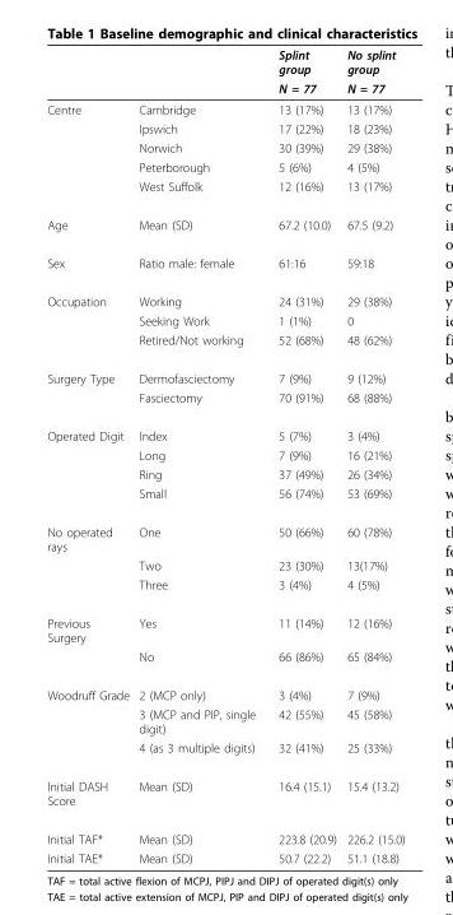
<table><thead><tr><td rowspan="2"></td><td rowspan="2"></td><td rowspan="2">Splint group N = 77</td><td rowspan="2">No splint group N = 77</td></tr><tr></tr></thead><tbody><tr><td rowspan="5">Centre</td><td>Cambridge</td><td>13 (17%)</td><td>13 (17%)</td></tr><tr><td>Ipswich</td><td>17 (22%)</td><td>18 (23%)</td></tr><tr><td>Norwich</td><td>30 (39%)</td><td>29 (38%)</td></tr><tr><td>Peterborough</td><td>5 (6%)</td><td>4 (5%)</td></tr><tr><td>West Suffolk</td><td>12 (16%)</td><td>13 (17%)</td></tr><tr><td>Age</td><td>Mean (SD)</td><td>67.2 (10.0)</td><td>67.5 (9.2)</td></tr><tr><td>Sex</td><td>Ratio male: female</td><td>61:16</td><td>59:18</td></tr><tr><td rowspan="3">Occupation</td><td>Working</td><td>24 (31%)</td><td>29 (38%)</td></tr><tr><td>Seeking Work</td><td>1 (1%)</td><td>0</td></tr><tr><td>Retired/Not working</td><td>52 (68%)</td><td>48 (62%)</td></tr><tr><td rowspan="2">Surgery Type</td><td>Dermofasciectomy</td><td>7 (9%)</td><td>9 (12%)</td></tr><tr><td>Fasciectomy</td><td>70 (91%)</td><td>68 (88%)</td></tr><tr><td rowspan="4">Operated Digit</td><td>Index</td><td>5 (7%)</td><td>3 (4%)</td></tr><tr><td>Long</td><td>7 (9%)</td><td>16 (21%)</td></tr><tr><td>Ring</td><td>37 (49%)</td><td>26 (34%)</td></tr><tr><td>Small</td><td>56 (74%)</td><td>53 (69%)</td></tr><tr><td rowspan="3">No operated rays</td><td>One</td><td>50 (66%)</td><td>60 (78%)</td></tr><tr><td>Two</td><td>23 (30%)</td><td>13(17%)</td></tr><tr><td>Three</td><td>3 (4%)</td><td>4 (5%)</td></tr><tr><td rowspan="2">Previous Surgery</td><td>Yes</td><td>11 (14%)</td><td>12 (16%)</td></tr><tr><td>No</td><td>66 (86%)</td><td>65 (84%)</td></tr><tr><td rowspan="3">Woodruff Grade</td><td>2 (MCP only)</td><td>3 (4%)</td><td>7 (9%)</td></tr><tr><td>3 (MCP and PIP, single digit)</td><td>42 (55%)</td><td>45 (58%)</td></tr><tr><td>4 (as 3 multiple digits)</td><td>32 (41%)</td><td>25 (33%)</td></tr><tr><td>Initial DASH Score</td><td>Mean (SD)</td><td>16.4 (15.1)</td><td>15.4 (13.2)</td></tr><tr><td>Initial TAF*</td><td>Mean (SD)</td><td>223.8 (20.9)</td><td>226.2 (15.0)</td></tr><tr><td>Initial TAE*</td><td>Mean (SD)</td><td>50.7 (22.2)</td><td>51.1 (18.8)</td></tr></tbody></table>